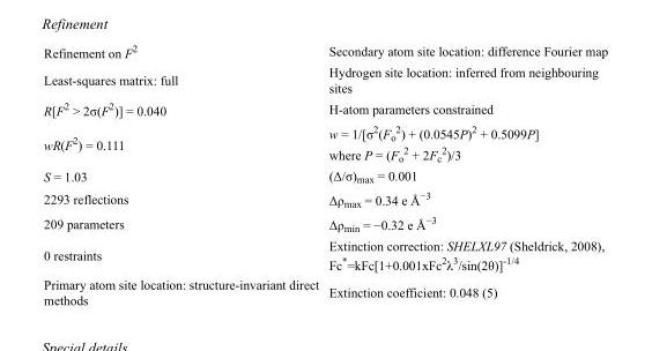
<table><tbody><tr><td>Refinement on F<sup>2</sup></td><td>Secondary atom site location: difference Fourier map</td></tr><tr><td>Least-squares matrix: full</td><td>Hydrogen site location: inferred from neighbouring sites</td></tr><tr><td>R[F<sup>2</sup> &gt; 2σ(F<sup>2</sup>)] = 0.040</td><td>H-atom parameters constrained</td></tr><tr><td>wR(F<sup>2</sup>) = 0.111</td><td>w = 1/[σ<sup>2</sup>(F<sub>o</sub> <sup>2</sup>) + (0.0545P)<sup>2</sup> + 0.5099P] where P = (F<sub>o</sub> <sup>2</sup> + 2F<sub>c</sub> <sup>2</sup>)/3</td></tr><tr><td>S = 1.03</td><td>(Δ/σ)<sub>max</sub> = 0.001</td></tr><tr><td>2293 reflections</td><td>Δρ<sub>max</sub> = 0.34 e Å<sup>−3</sup></td></tr><tr><td>209 parameters</td><td>Δρ<sub>min</sub> = −0.32 e Å<sup>−3</sup></td></tr><tr><td>0 restraints</td><td>Extinction correction: SHELXL97 (Sheldrick, 2008), Fc*=kFc[1+0.001xFc<sup>2</sup>λ<sup>3</sup>/sin(2θ)]<sup>-1/4</sup></td></tr><tr><td>Primary atom site location: structure-invariant direct methods</td><td>Extinction coefficient: 0.048 (5)</td></tr></tbody></table>